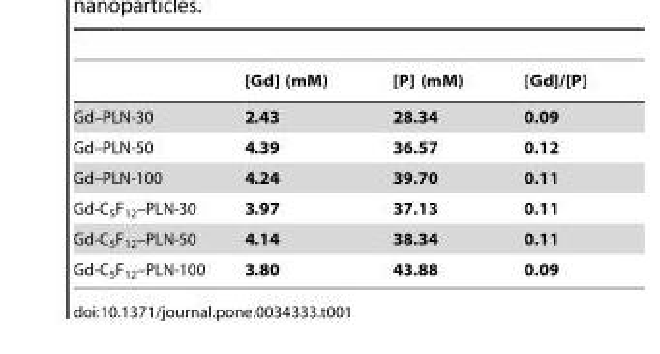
<table><thead><tr><td></td><td>[Gd] (mM)</td><td>[P] (mM)</td><td>[Gd]/[P]</td></tr></thead><tbody><tr><td>Gd–PLN-30</td><td>2.43</td><td>28.34</td><td>0.09</td></tr><tr><td>Gd–PLN-50</td><td>4.39</td><td>36.57</td><td>0.12</td></tr><tr><td>Gd–PLN-100</td><td>4.24</td><td>39.70</td><td>0.11</td></tr><tr><td>Gd-C<sub>5</sub>F<sub>12</sub>–PLN-30</td><td>3.97</td><td>37.13</td><td>0.11</td></tr><tr><td>Gd-C<sub>5</sub>F<sub>12</sub>–PLN-50</td><td>4.14</td><td>38.34</td><td>0.11</td></tr><tr><td>Gd-C<sub>5</sub>F<sub>12</sub>–PLN-100</td><td>3.80</td><td>43.88</td><td>0.09</td></tr></tbody></table>